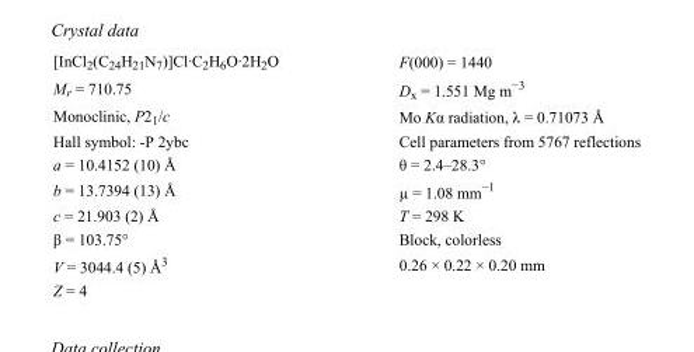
<table><tbody><tr><td>[InCl<sub>2</sub>(C<sub>24</sub>H<sub>21</sub>N<sub>7</sub>)]Cl·C<sub>2</sub>H<sub>6</sub>O·2H<sub>2</sub>O</td><td>F(000) = 1440</td></tr><tr><td>M<sub>r</sub> = 710.75</td><td>D<sub>x</sub> = 1.551 Mg m<sup>−3</sup></td></tr><tr><td>Monoclinic, P2<sub>1</sub>/c</td><td>Mo Kα radiation, λ = 0.71073 Å</td></tr><tr><td>Hall symbol: -P 2ybc</td><td>Cell parameters from 5767 reflections</td></tr><tr><td>a = 10.4152 (10) Å</td><td>θ = 2.4–28.3°</td></tr><tr><td>b = 13.7394 (13) Å</td><td>µ = 1.08 mm<sup>−1</sup></td></tr><tr><td>c = 21.903 (2) Å</td><td>T = 298 K</td></tr><tr><td>β = 103.75°</td><td>Block, colorless</td></tr><tr><td>V = 3044.4 (5) Å<sup>3</sup></td><td>0.26 × 0.22 × 0.20 mm</td></tr><tr><td>Z = 4</td><td></td></tr></tbody></table>